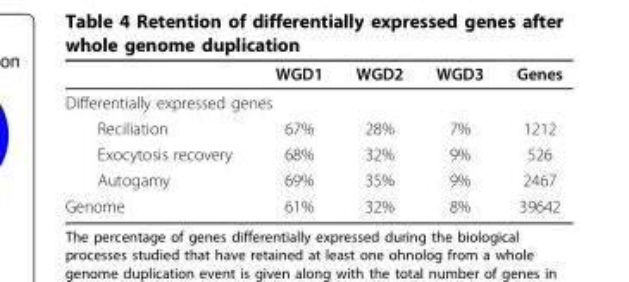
<table><thead><tr><td></td><td>WGD1</td><td>WGD2</td><td>WGD3</td><td>Genes</td></tr></thead><tbody><tr><td colspan="5">Differentially expressed genes</td></tr><tr><td>Reciliation</td><td>67%</td><td>28%</td><td>7%</td><td>1212</td></tr><tr><td>Exocytosis recovery</td><td>68%</td><td>32%</td><td>9%</td><td>526</td></tr><tr><td>Autogamy</td><td>69%</td><td>35%</td><td>9%</td><td>2467</td></tr><tr><td>Genome</td><td>61%</td><td>32%</td><td>8%</td><td>39642</td></tr></tbody></table>